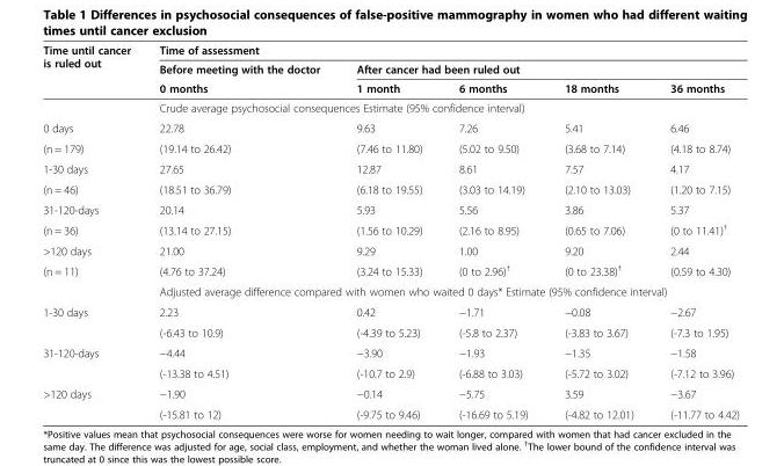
<table><thead><tr><td rowspan="3">Time until cancer is ruled out</td><td colspan="5">Time of assessment</td></tr><tr><td rowspan="2">Before meeting with the doctor 0 months</td><td colspan="4">After cancer had been ruled out</td></tr><tr><td>1 month</td><td>6 months</td><td>18 months</td><td>36 months</td></tr></thead><tbody><tr><td></td><td colspan="5">Crude average psychosocial consequences Estimate (95% confidence interval)</td></tr><tr><td>0 days</td><td>22.78</td><td>9.63</td><td>7.26</td><td>5.41</td><td>6.46</td></tr><tr><td>(n = 179)</td><td>(19.14 to 26.42)</td><td>(7.46 to 11.80)</td><td>(5.02 to 9.50)</td><td>(3.68 to 7.14)</td><td>(4.18 to 8.74)</td></tr><tr><td>1-30 days</td><td>27.65</td><td>12.87</td><td>8.61</td><td>7.57</td><td>4.17</td></tr><tr><td>(n = 46)</td><td>(18.51 to 36.79)</td><td>(6.18 to 19.55)</td><td>(3.03 to 14.19)</td><td>(2.10 to 13.03)</td><td>(1.20 to 7.15)</td></tr><tr><td>31-120-days</td><td>20.14</td><td>5.93</td><td>5.56</td><td>3.86</td><td>5.37</td></tr><tr><td>(n = 36)</td><td>(13.14 to 27.15)</td><td>(1.56 to 10.29)</td><td>(2.16 to 8.95)</td><td>(0.65 to 7.06)</td><td>(0 to 11.41)<sup>†</sup></td></tr><tr><td>&gt;120 days</td><td>21.00</td><td>9.29</td><td>1.00</td><td>9.20</td><td>2.44</td></tr><tr><td rowspan="2">(n = 11)</td><td>(4.76 to 37.24)</td><td>(3.24 to 15.33)</td><td>(0 to 2.96)<sup>†</sup></td><td>(0 to 23.38)<sup>†</sup></td><td>(0.59 to 4.30)</td></tr><tr><td colspan="5">Adjusted average difference compared with women who waited 0 days* Estimate (95% confidence interval)</td></tr><tr><td rowspan="2">1-30 days</td><td>2.23</td><td>0.42</td><td>−1.71</td><td>−0.08</td><td>−2.67</td></tr><tr><td>(-6.43 to 10.9)</td><td>(-4.39 to 5.23)</td><td>(-5.8 to 2.37)</td><td>(-3.83 to 3.67)</td><td>(-7.3 to 1.95)</td></tr><tr><td rowspan="2">31-120-days</td><td>−4.44</td><td>−3.90</td><td>−1.93</td><td>−1.35</td><td>−1.58</td></tr><tr><td>(-13.38 to 4.51)</td><td>(-10.7 to 2.9)</td><td>(-6.88 to 3.03)</td><td>(-5.72 to 3.02)</td><td>(-7.12 to 3.96)</td></tr><tr><td rowspan="2">&gt;120 days</td><td>−1.90</td><td>−0.14</td><td>−5.75</td><td>3.59</td><td>−3.67</td></tr><tr><td>(-15.81 to 12)</td><td>(-9.75 to 9.46)</td><td>(-16.69 to 5.19)</td><td>(-4.82 to 12.01)</td><td>(-11.77 to 4.42)</td></tr></tbody></table>